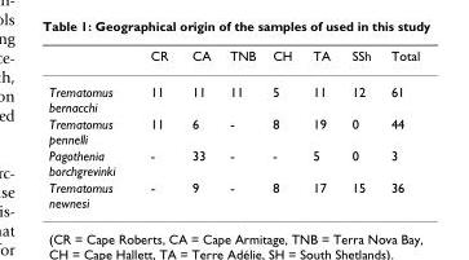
<table><thead><tr><td></td><td>CR</td><td>CA</td><td>TNB</td><td>CH</td><td>TA</td><td>SSh</td><td>Total</td></tr></thead><tbody><tr><td>Trematomus bernacchi</td><td>11</td><td>11</td><td>11</td><td>5</td><td>11</td><td>12</td><td>61</td></tr><tr><td>Trematomus pennelli</td><td>11</td><td>6</td><td>-</td><td>8</td><td>19</td><td>0</td><td>44</td></tr><tr><td>Pagothenia borchgrevinki</td><td>-</td><td>33</td><td>-</td><td>-</td><td>5</td><td>0</td><td>3</td></tr><tr><td>Trematomus newnesi</td><td>-</td><td>9</td><td>-</td><td>8</td><td>17</td><td>15</td><td>36</td></tr></tbody></table>